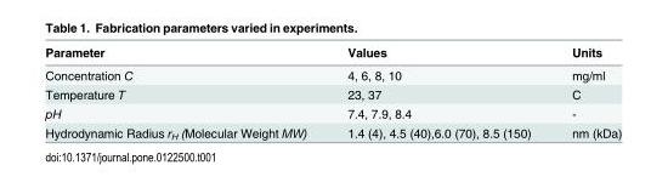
<table><thead><tr><td>Parameter</td><td>Values</td><td>Units</td></tr></thead><tbody><tr><td>Concentration C</td><td>4, 6, 8, 10</td><td>mg/ml</td></tr><tr><td>Temperature T</td><td>23, 37</td><td>C</td></tr><tr><td>pH</td><td>7.4, 7.9, 8.4</td><td>-</td></tr><tr><td>Hydrodynamic Radius r<sub>H</sub> (Molecular Weight MW)</td><td>1.4 (4), 4.5 (40),6.0 (70), 8.5 (150)</td><td>nm (kDa)</td></tr></tbody></table>